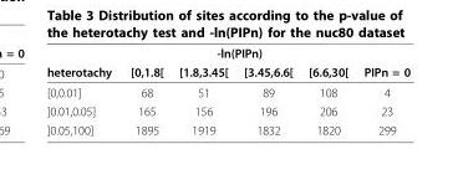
<table><thead><tr><td rowspan="2">heterotachy</td><td colspan="4">-ln(PIPn)</td><td rowspan="2">PIPn = 0</td></tr><tr><td>[0,1.8[</td><td>[1.8,3.45[</td><td>[3.45,6.6[</td><td>[6.6,30[</td></tr></thead><tbody><tr><td>[0,0.01]</td><td>68</td><td>51</td><td>89</td><td>108</td><td>4</td></tr><tr><td>]0.01,0.05]</td><td>165</td><td>156</td><td>196</td><td>206</td><td>23</td></tr><tr><td>]0.05,100]</td><td>1895</td><td>1919</td><td>1832</td><td>1820</td><td>299</td></tr></tbody></table>